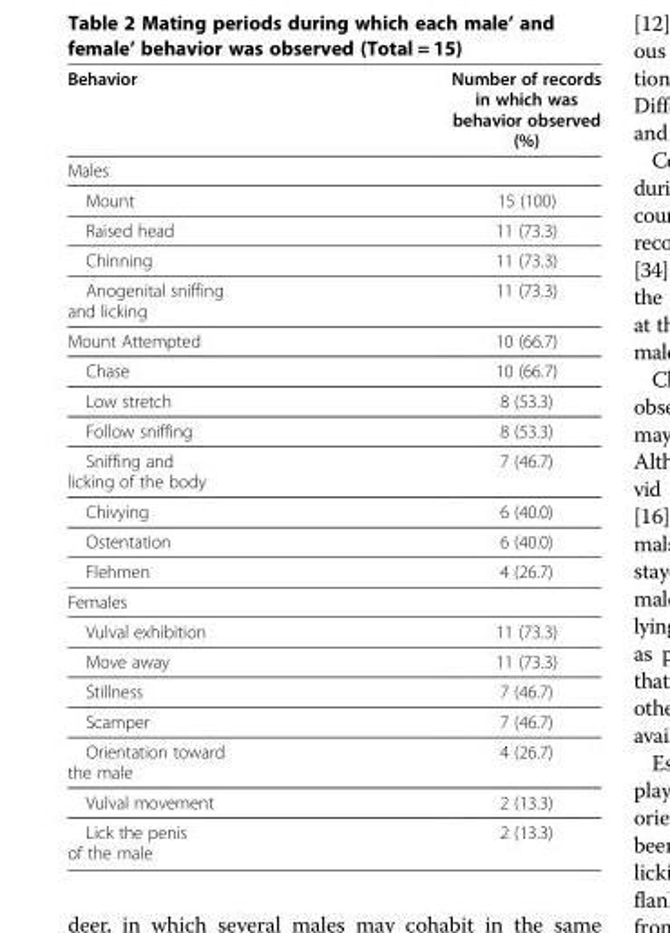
<table><thead><tr><td>Behavior</td><td>Number of records in which was behavior observed (%)</td></tr></thead><tbody><tr><td colspan="2">Males</td></tr><tr><td>Mount</td><td>15 (100)</td></tr><tr><td>Raised head</td><td>11 (73.3)</td></tr><tr><td>Chinning</td><td>11 (73.3)</td></tr><tr><td>Anogenital sniffing and licking</td><td>11 (73.3)</td></tr><tr><td>Mount Attempted</td><td>10 (66.7)</td></tr><tr><td>Chase</td><td>10 (66.7)</td></tr><tr><td>Low stretch</td><td>8 (53.3)</td></tr><tr><td>Follow sniffing</td><td>8 (53.3)</td></tr><tr><td>Sniffing and licking of the body</td><td>7 (46.7)</td></tr><tr><td>Chivying</td><td>6 (40.0)</td></tr><tr><td>Ostentation</td><td>6 (40.0)</td></tr><tr><td>Flehmen</td><td>4 (26.7)</td></tr><tr><td colspan="2">Females</td></tr><tr><td>Vulval exhibition</td><td>11 (73.3)</td></tr><tr><td>Move away</td><td>11 (73.3)</td></tr><tr><td>Stillness</td><td>7 (46.7)</td></tr><tr><td>Scamper</td><td>7 (46.7)</td></tr><tr><td>Orientation toward the male</td><td>4 (26.7)</td></tr><tr><td>Vulval movement</td><td>2 (13.3)</td></tr><tr><td>Lick the penis of the male</td><td>2 (13.3)</td></tr></tbody></table>